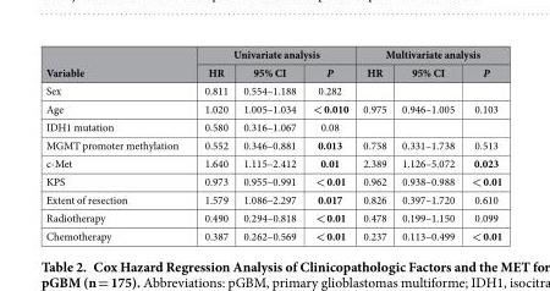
<table><thead><tr><td rowspan="2">Variable</td><td colspan="3">Univariate analysis</td><td colspan="3">Multivariate analysis</td></tr><tr><td>HR</td><td>95% CI</td><td>P</td><td>HR</td><td>95% CI</td><td>P</td></tr></thead><tbody><tr><td>Sex</td><td>0.811</td><td>0.554–1.188</td><td>0.282</td><td></td><td></td><td></td></tr><tr><td>Age</td><td>1.020</td><td>1.005–1.034</td><td>&lt; 0.010</td><td>0.975</td><td>0.946–1.005</td><td>0.103</td></tr><tr><td>IDH1 mutation</td><td>0.580</td><td>0.316–1.067</td><td>0.08</td><td></td><td></td><td></td></tr><tr><td>MGMT promoter methylation</td><td>0.552</td><td>0.346–0.881</td><td>0.013</td><td>0.758</td><td>0.331–1.738</td><td>0.513</td></tr><tr><td>c-Met</td><td>1.640</td><td>1.115–2.412</td><td>0.01</td><td>2.389</td><td>1.126–5.072</td><td>0.023</td></tr><tr><td>KPS</td><td>0.973</td><td>0.955–0.991</td><td>&lt; 0.01</td><td>0.962</td><td>0.938–0.988</td><td>&lt; 0.01</td></tr><tr><td>Extent of resection</td><td>1.579</td><td>1.086–2.297</td><td>0.017</td><td>0.826</td><td>0.397–1.720</td><td>0.610</td></tr><tr><td>Radiotherapy</td><td>0.490</td><td>0.294–0.818</td><td>&lt; 0.01</td><td>0.478</td><td>0.199–1.150</td><td>0.099</td></tr><tr><td>Chemotherapy</td><td>0.387</td><td>0.262–0.569</td><td>&lt; 0.01</td><td>0.237</td><td>0.113–0.499</td><td>&lt; 0.01</td></tr></tbody></table>